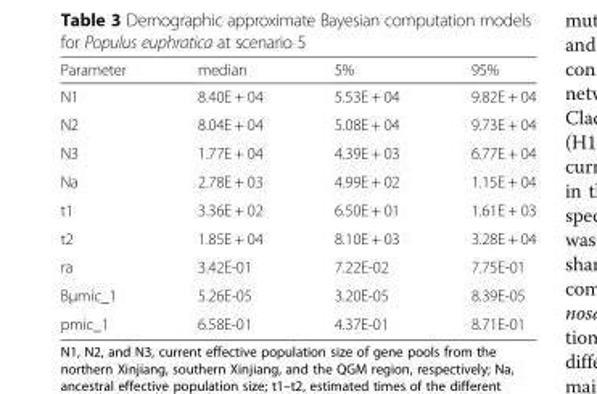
<table><thead><tr><td>Parameter</td><td>median</td><td>5%</td><td>95%</td></tr></thead><tbody><tr><td>N1</td><td>8.40E + 04</td><td>5.53E + 04</td><td>9.82E + 04</td></tr><tr><td>N2</td><td>8.04E + 04</td><td>5.08E + 04</td><td>9.73E + 04</td></tr><tr><td>N3</td><td>1.77E + 04</td><td>4.39E + 03</td><td>6.77E + 04</td></tr><tr><td>Na</td><td>2.78E + 03</td><td>4.99E + 02</td><td>1.15E + 04</td></tr><tr><td>t1</td><td>3.36E + 02</td><td>6.50E + 01</td><td>1.61E + 03</td></tr><tr><td>t2</td><td>1.85E + 04</td><td>8.10E + 03</td><td>3.28E + 04</td></tr><tr><td>ra</td><td>3.42E-01</td><td>7.22E-02</td><td>7.75E-01</td></tr><tr><td>Вμmic_1</td><td>5.26E-05</td><td>3.20E-05</td><td>8.39E-05</td></tr><tr><td>pmic_1</td><td>6.58E-01</td><td>4.37E-01</td><td>8.71E-01</td></tr></tbody></table>